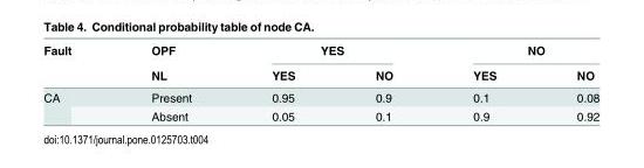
<table><thead><tr><td rowspan="2">Fault</td><td rowspan="2">OPF NL</td><td colspan="2">YES</td><td colspan="2">NO</td></tr><tr><td>YES</td><td>NO</td><td>YES</td><td>NO</td></tr></thead><tbody><tr><td rowspan="2">CA</td><td>Present</td><td>0.95</td><td>0.9</td><td>0.1</td><td>0.08</td></tr><tr><td>Absent</td><td>0.05</td><td>0.1</td><td>0.9</td><td>0.92</td></tr></tbody></table>